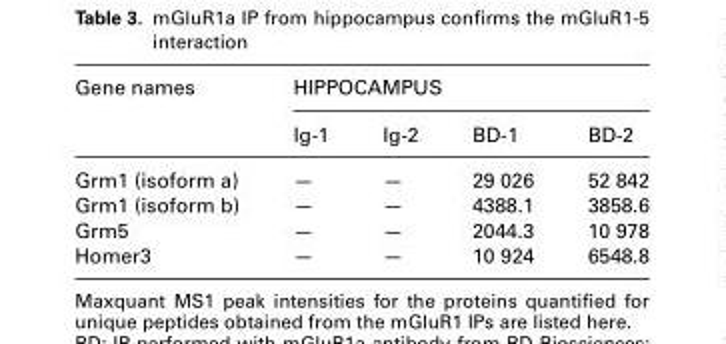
<table><thead><tr><td rowspan="2">Gene names</td><td colspan="4">HIPPOCAMPUS</td></tr><tr><td>Ig-1</td><td>Ig-2</td><td>BD-1</td><td>BD-2</td></tr></thead><tbody><tr><td>Grm1 (isoform a)</td><td>—</td><td>—</td><td>29 026</td><td>52 842</td></tr><tr><td>Grm1 (isoform b)</td><td>—</td><td>—</td><td>4388.1</td><td>3858.6</td></tr><tr><td>Grm5</td><td>—</td><td>—</td><td>2044.3</td><td>10 978</td></tr><tr><td>Homer3</td><td>—</td><td>—</td><td>10 924</td><td>6548.8</td></tr></tbody></table>